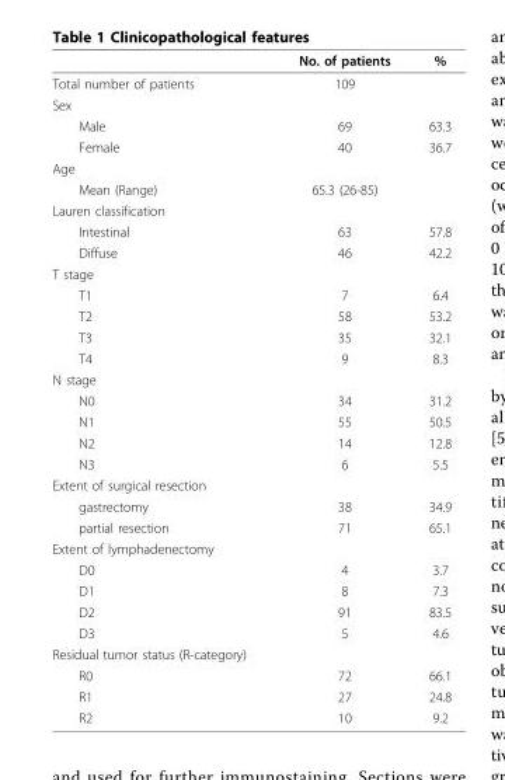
<table><thead><tr><td></td><td>No. of patients</td><td>%</td></tr></thead><tbody><tr><td>Total number of patients</td><td>109</td><td></td></tr><tr><td colspan="3">Sex</td></tr><tr><td>Male</td><td>69</td><td>63.3</td></tr><tr><td>Female</td><td>40</td><td>36.7</td></tr><tr><td colspan="3">Age</td></tr><tr><td>Mean (Range)</td><td>65.3 (26-85)</td><td></td></tr><tr><td colspan="3">Lauren classification</td></tr><tr><td>Intestinal</td><td>63</td><td>57.8</td></tr><tr><td>Diffuse</td><td>46</td><td>42.2</td></tr><tr><td colspan="3">T stage</td></tr><tr><td>T1</td><td>7</td><td>6.4</td></tr><tr><td>T2</td><td>58</td><td>53.2</td></tr><tr><td>T3</td><td>35</td><td>32.1</td></tr><tr><td>T4</td><td>9</td><td>8.3</td></tr><tr><td colspan="3">N stage</td></tr><tr><td>N0</td><td>34</td><td>31.2</td></tr><tr><td>N1</td><td>55</td><td>50.5</td></tr><tr><td>N2</td><td>14</td><td>12.8</td></tr><tr><td>N3</td><td>6</td><td>5.5</td></tr><tr><td colspan="3">Extent of surgical resection</td></tr><tr><td>gastrectomy</td><td>38</td><td>34.9</td></tr><tr><td>partial resection</td><td>71</td><td>65.1</td></tr><tr><td colspan="3">Extent of lymphadenectomy</td></tr><tr><td>D0</td><td>4</td><td>3.7</td></tr><tr><td>D1</td><td>8</td><td>7.3</td></tr><tr><td>D2</td><td>91</td><td>83.5</td></tr><tr><td>D3</td><td>5</td><td>4.6</td></tr><tr><td colspan="3">Residual tumor status (R-category)</td></tr><tr><td>R0</td><td>72</td><td>66.1</td></tr><tr><td>R1</td><td>27</td><td>24.8</td></tr><tr><td>R2</td><td>10</td><td>9.2</td></tr></tbody></table>